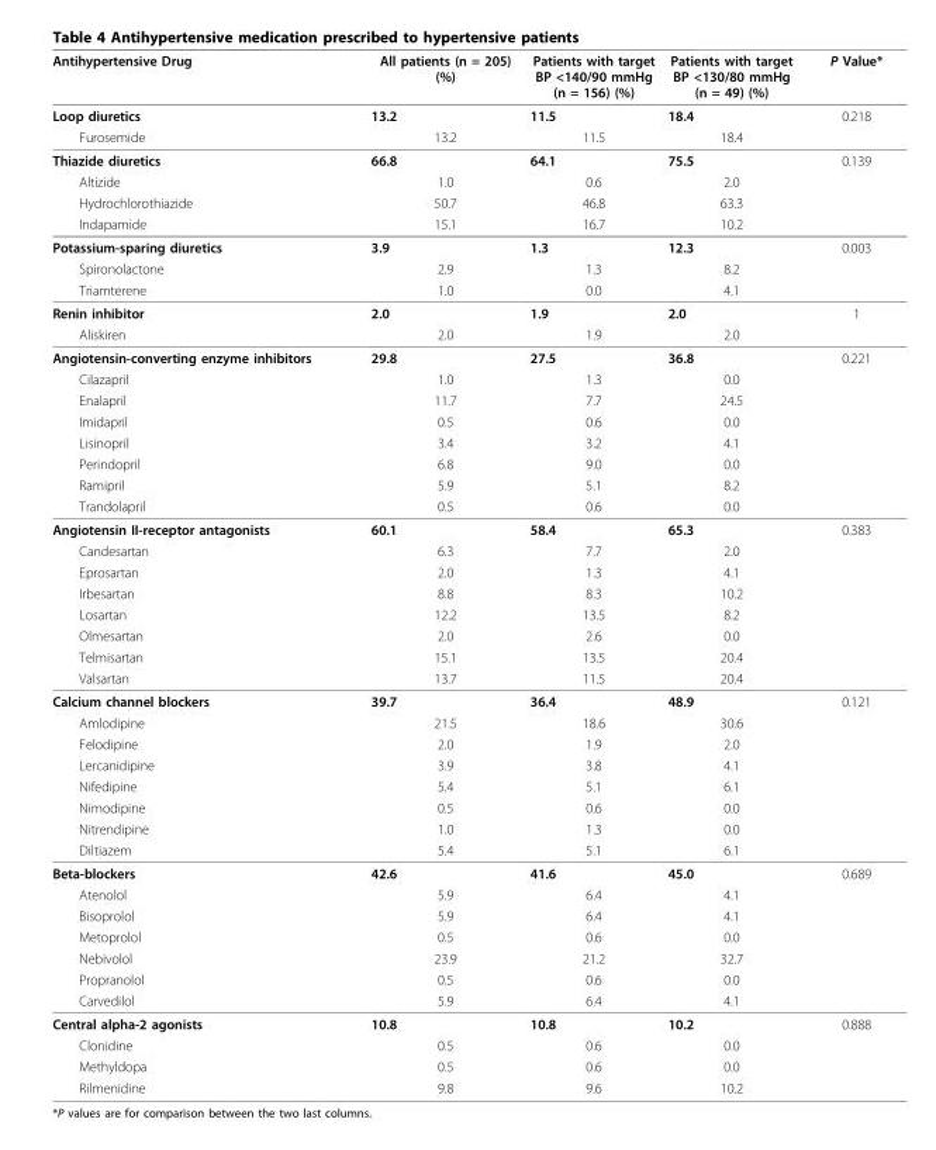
<table><thead><tr><td>Antihypertensive Drug</td><td>All patients (n = 205) (%)</td><td>Patients with target BP &lt;140/90 mmHg (n = 156) (%)</td><td>Patients with target BP &lt;130/80 mmHg (n = 49) (%)</td><td>P Value*</td></tr></thead><tbody><tr><td>Loop diuretics</td><td>13.2</td><td>11.5</td><td>18.4</td><td>0.218</td></tr><tr><td>Furosemide</td><td>13.2</td><td>11.5</td><td>18.4</td><td></td></tr><tr><td>Thiazide diuretics</td><td>66.8</td><td>64.1</td><td>75.5</td><td>0.139</td></tr><tr><td>Altizide</td><td>1.0</td><td>0.6</td><td>2.0</td><td></td></tr><tr><td>Hydrochlorothiazide</td><td>50.7</td><td>46.8</td><td>63.3</td><td></td></tr><tr><td>Indapamide</td><td>15.1</td><td>16.7</td><td>10.2</td><td></td></tr><tr><td>Potassium-sparing diuretics</td><td>3.9</td><td>1.3</td><td>12.3</td><td>0.003</td></tr><tr><td>Spironolactone</td><td>2.9</td><td>1.3</td><td>8.2</td><td></td></tr><tr><td>Triamterene</td><td>1.0</td><td>0.0</td><td>4.1</td><td></td></tr><tr><td>Renin inhibitor</td><td>2.0</td><td>1.9</td><td>2.0</td><td>1</td></tr><tr><td>Aliskiren</td><td>2.0</td><td>1.9</td><td>2.0</td><td></td></tr><tr><td>Angiotensin-converting enzyme inhibitors</td><td>29.8</td><td>27.5</td><td>36.8</td><td>0.221</td></tr><tr><td>Cilazapril</td><td>1.0</td><td>1.3</td><td>0.0</td><td></td></tr><tr><td>Enalapril</td><td>11.7</td><td>7.7</td><td>24.5</td><td></td></tr><tr><td>Imidapril</td><td>0.5</td><td>0.6</td><td>0.0</td><td></td></tr><tr><td>Lisinopril</td><td>3.4</td><td>3.2</td><td>4.1</td><td></td></tr><tr><td>Perindopril</td><td>6.8</td><td>9.0</td><td>0.0</td><td></td></tr><tr><td>Ramipril</td><td>5.9</td><td>5.1</td><td>8.2</td><td></td></tr><tr><td>Trandolapril</td><td>0.5</td><td>0.6</td><td>0.0</td><td></td></tr><tr><td>Angiotensin II-receptor antagonists</td><td>60.1</td><td>58.4</td><td>65.3</td><td>0.383</td></tr><tr><td>Candesartan</td><td>6.3</td><td>7.7</td><td>2.0</td><td></td></tr><tr><td>Eprosartan</td><td>2.0</td><td>1.3</td><td>4.1</td><td></td></tr><tr><td>Irbesartan</td><td>8.8</td><td>8.3</td><td>10.2</td><td></td></tr><tr><td>Losartan</td><td>12.2</td><td>13.5</td><td>8.2</td><td></td></tr><tr><td>Olmesartan</td><td>2.0</td><td>2.6</td><td>0.0</td><td></td></tr><tr><td>Telmisartan</td><td>15.1</td><td>13.5</td><td>20.4</td><td></td></tr><tr><td>Valsartan</td><td>13.7</td><td>11.5</td><td>20.4</td><td></td></tr><tr><td>Calcium channel blockers</td><td>39.7</td><td>36.4</td><td>48.9</td><td>0.121</td></tr><tr><td>Amlodipine</td><td>21.5</td><td>18.6</td><td>30.6</td><td></td></tr><tr><td>Felodipine</td><td>2.0</td><td>1.9</td><td>2.0</td><td></td></tr><tr><td>Lercanidipine</td><td>3.9</td><td>3.8</td><td>4.1</td><td></td></tr><tr><td>Nifedipine</td><td>5.4</td><td>5.1</td><td>6.1</td><td></td></tr><tr><td>Nimodipine</td><td>0.5</td><td>0.6</td><td>0.0</td><td></td></tr><tr><td>Nitrendipine</td><td>1.0</td><td>1.3</td><td>0.0</td><td></td></tr><tr><td>Diltiazem</td><td>5.4</td><td>5.1</td><td>6.1</td><td></td></tr><tr><td>Beta-blockers</td><td>42.6</td><td>41.6</td><td>45.0</td><td>0.689</td></tr><tr><td>Atenolol</td><td>5.9</td><td>6.4</td><td>4.1</td><td></td></tr><tr><td>Bisoprolol</td><td>5.9</td><td>6.4</td><td>4.1</td><td></td></tr><tr><td>Metoprolol</td><td>0.5</td><td>0.6</td><td>0.0</td><td></td></tr><tr><td>Nebivolol</td><td>23.9</td><td>21.2</td><td>32.7</td><td></td></tr><tr><td>Propranolol</td><td>0.5</td><td>0.6</td><td>0.0</td><td></td></tr><tr><td>Carvedilol</td><td>5.9</td><td>6.4</td><td>4.1</td><td></td></tr><tr><td>Central alpha-2 agonists</td><td>10.8</td><td>10.8</td><td>10.2</td><td>0.888</td></tr><tr><td>Clonidine</td><td>0.5</td><td>0.6</td><td>0.0</td><td></td></tr><tr><td>Methyldopa</td><td>0.5</td><td>0.6</td><td>0.0</td><td></td></tr><tr><td>Rilmenidine</td><td>9.8</td><td>9.6</td><td>10.2</td><td></td></tr></tbody></table>